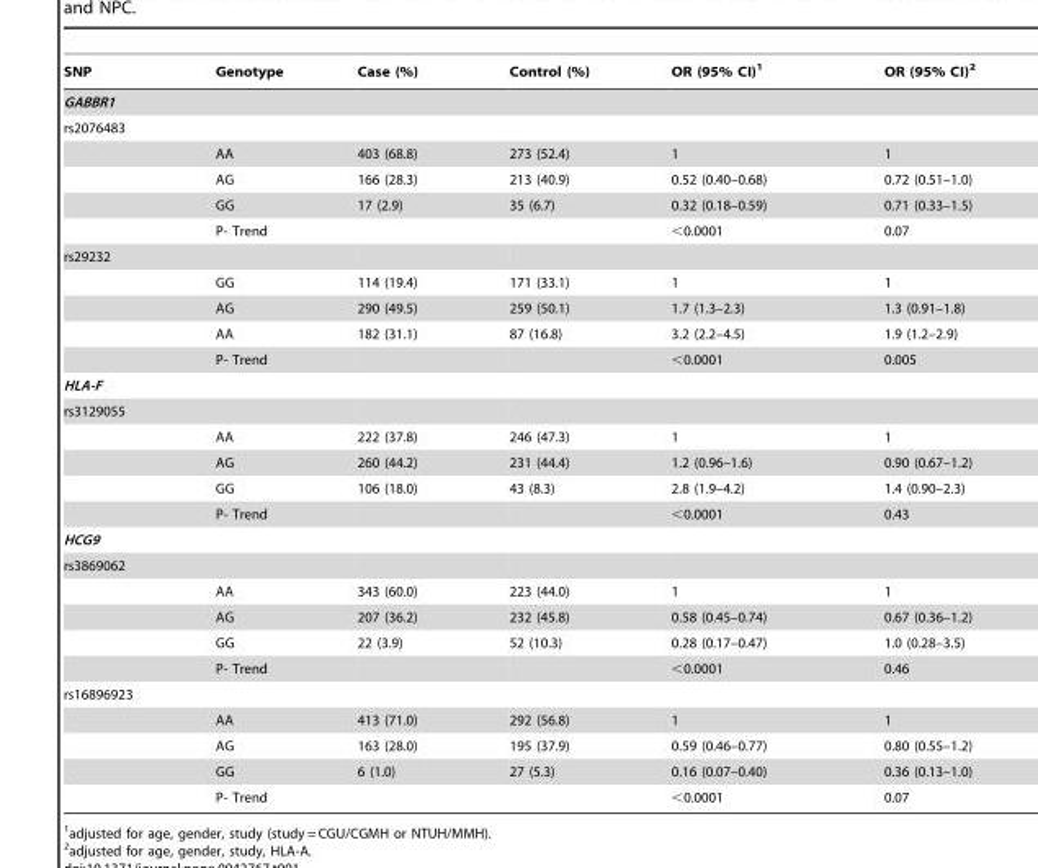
<table><thead><tr><td>SNP</td><td>Genotype</td><td>Case (%)</td><td>Control (%)</td><td>OR (95% CI)<sup>1</sup></td><td>OR (95% CI)<sup>2</sup></td></tr></thead><tbody><tr><td colspan="6">GABBR1</td></tr><tr><td colspan="6">rs2076483</td></tr><tr><td></td><td>AA</td><td>403 (68.8)</td><td>273 (52.4)</td><td>1</td><td>1</td></tr><tr><td></td><td>AG</td><td>166 (28.3)</td><td>213 (40.9)</td><td>0.52 (0.40–0.68)</td><td>0.72 (0.51–1.0)</td></tr><tr><td></td><td>GG</td><td>17 (2.9)</td><td>35 (6.7)</td><td>0.32 (0.18–0.59)</td><td>0.71 (0.33–1.5)</td></tr><tr><td></td><td>P- Trend</td><td></td><td></td><td>&lt;0.0001</td><td>0.07</td></tr><tr><td colspan="6">rs29232</td></tr><tr><td></td><td>GG</td><td>114 (19.4)</td><td>171 (33.1)</td><td>1</td><td>1</td></tr><tr><td></td><td>AG</td><td>290 (49.5)</td><td>259 (50.1)</td><td>1.7 (1.3–2.3)</td><td>1.3 (0.91–1.8)</td></tr><tr><td></td><td>AA</td><td>182 (31.1)</td><td>87 (16.8)</td><td>3.2 (2.2–4.5)</td><td>1.9 (1.2–2.9)</td></tr><tr><td></td><td>P- Trend</td><td></td><td></td><td>&lt;0.0001</td><td>0.005</td></tr><tr><td colspan="6">HLA-F</td></tr><tr><td colspan="6">rs3129055</td></tr><tr><td></td><td>AA</td><td>222 (37.8)</td><td>246 (47.3)</td><td>1</td><td>1</td></tr><tr><td></td><td>AG</td><td>260 (44.2)</td><td>231 (44.4)</td><td>1.2 (0.96–1.6)</td><td>0.90 (0.67–1.2)</td></tr><tr><td></td><td>GG</td><td>106 (18.0)</td><td>43 (8.3)</td><td>2.8 (1.9–4.2)</td><td>1.4 (0.90–2.3)</td></tr><tr><td></td><td>P- Trend</td><td></td><td></td><td>&lt;0.0001</td><td>0.43</td></tr><tr><td colspan="6">HCG9</td></tr><tr><td colspan="6">rs3869062</td></tr><tr><td></td><td>AA</td><td>343 (60.0)</td><td>223 (44.0)</td><td>1</td><td>1</td></tr><tr><td></td><td>AG</td><td>207 (36.2)</td><td>232 (45.8)</td><td>0.58 (0.45–0.74)</td><td>0.67 (0.36–1.2)</td></tr><tr><td></td><td>GG</td><td>22 (3.9)</td><td>52 (10.3)</td><td>0.28 (0.17–0.47)</td><td>1.0 (0.28–3.5)</td></tr><tr><td></td><td>P- Trend</td><td></td><td></td><td>&lt;0.0001</td><td>0.46</td></tr><tr><td colspan="6">rs16896923</td></tr><tr><td></td><td>AA</td><td>413 (71.0)</td><td>292 (56.8)</td><td>1</td><td>1</td></tr><tr><td></td><td>AG</td><td>163 (28.0)</td><td>195 (37.9)</td><td>0.59 (0.46–0.77)</td><td>0.80 (0.55–1.2)</td></tr><tr><td></td><td>GG</td><td>6 (1.0)</td><td>27 (5.3)</td><td>0.16 (0.07–0.40)</td><td>0.36 (0.13–1.0)</td></tr><tr><td></td><td>P- Trend</td><td></td><td></td><td>&lt;0.0001</td><td>0.07</td></tr></tbody></table>